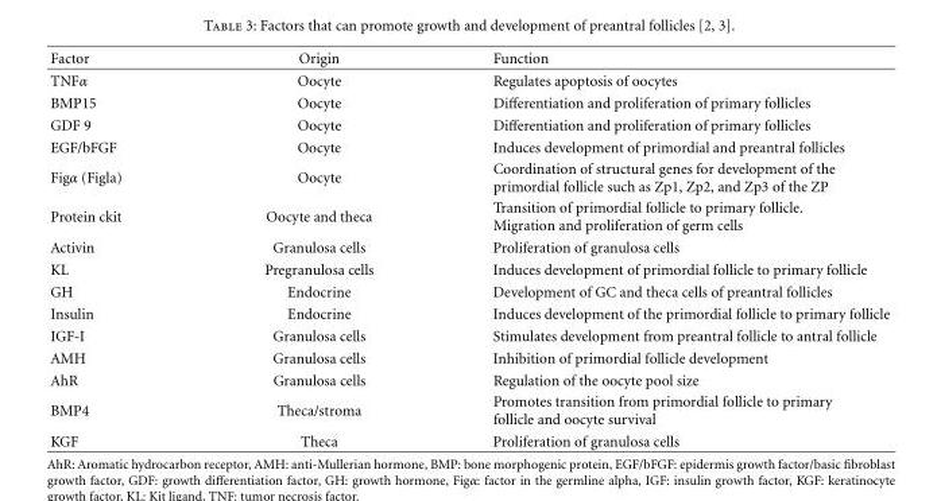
<table><thead><tr><td>Factor</td><td>Origin</td><td>Function</td></tr></thead><tbody><tr><td>TNFα</td><td>Oocyte</td><td>Regulates apoptosis of oocytes</td></tr><tr><td>BMP15</td><td>Oocyte</td><td>Differentiation and proliferation of primary follicles</td></tr><tr><td>GDF 9</td><td>Oocyte</td><td>Differentiation and proliferation of primary follicles</td></tr><tr><td>EGF/bFGF</td><td>Oocyte</td><td>Induces development of primordial and preantral follicles</td></tr><tr><td>Figα (Figla)</td><td>Oocyte</td><td>Coordination of structural genes for development of the primordial follicle such as Zp1, Zp2, and Zp3 of the ZP</td></tr><tr><td>Protein ckit</td><td>Oocyte and theca</td><td>Transition of primordial follicle to primary follicle. Migration and proliferation of germ cells</td></tr><tr><td>Activin</td><td>Granulosa cells</td><td>Proliferation of granulosa cells</td></tr><tr><td>KL</td><td>Pregranulosa cells</td><td>Induces development of primordial follicle to primary follicle</td></tr><tr><td>GH</td><td>Endocrine</td><td>Development of GC and theca cells of preantral follicles</td></tr><tr><td>Insulin</td><td>Endocrine</td><td>Induces development of the primordial follicle to primary follicle</td></tr><tr><td>IGF-I</td><td>Granulosa cells</td><td>Stimulates development from preantral follicle to antral follicle</td></tr><tr><td>AMH</td><td>Granulosa cells</td><td>Inhibition of primordial follicle development</td></tr><tr><td>AhR</td><td>Granulosa cells</td><td>Regulation of the oocyte pool size</td></tr><tr><td>BMP4</td><td>Theca/stroma</td><td>Promotes transition from primordial follicle to primary follicle and oocyte survival</td></tr><tr><td>KGF</td><td>Theca</td><td>Proliferation of granulosa cells</td></tr></tbody></table>